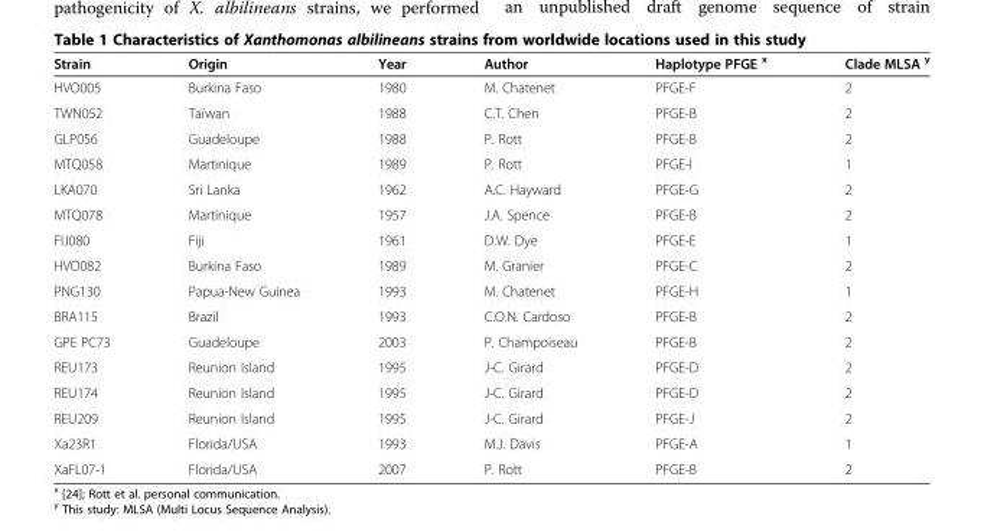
<table><thead><tr><td>Strain</td><td>Origin</td><td>Year</td><td>Author</td><td>Haplotype PFGE <sup>x</sup></td><td>Clade MLSA <sup>y</sup></td></tr></thead><tbody><tr><td>HVO005</td><td>Burkina Faso</td><td>1980</td><td>M. Chatenet</td><td>PFGE-F</td><td>2</td></tr><tr><td>TWN052</td><td>Taïwan</td><td>1988</td><td>C.T. Chen</td><td>PFGE-B</td><td>2</td></tr><tr><td>GLP056</td><td>Guadeloupe</td><td>1988</td><td>P. Rott</td><td>PFGE-B</td><td>2</td></tr><tr><td>MTQ058</td><td>Martinique</td><td>1989</td><td>P. Rott</td><td>PFGE-I</td><td>1</td></tr><tr><td>LKA070</td><td>Sri Lanka</td><td>1962</td><td>A.C. Hayward</td><td>PFGE-G</td><td>2</td></tr><tr><td>MTQ078</td><td>Martinique</td><td>1957</td><td>J.A. Spence</td><td>PFGE-B</td><td>2</td></tr><tr><td>FIJ080</td><td>Fiji</td><td>1961</td><td>D.W. Dye</td><td>PFGE-E</td><td>1</td></tr><tr><td>HVO082</td><td>Burkina Faso</td><td>1989</td><td>M. Granier</td><td>PFGE-C</td><td>2</td></tr><tr><td>PNG130</td><td>Papua-New Guinea</td><td>1993</td><td>M. Chatenet</td><td>PFGE-H</td><td>1</td></tr><tr><td>BRA115</td><td>Brazil</td><td>1993</td><td>C.O.N. Cardoso</td><td>PFGE-B</td><td>2</td></tr><tr><td>GPE PC73</td><td>Guadeloupe</td><td>2003</td><td>P. Champoiseau</td><td>PFGE-B</td><td>2</td></tr><tr><td>REU173</td><td>Reunion Island</td><td>1995</td><td>J-C. Girard</td><td>PFGE-D</td><td>2</td></tr><tr><td>REU174</td><td>Reunion Island</td><td>1995</td><td>J-C. Girard</td><td>PFGE-D</td><td>2</td></tr><tr><td>REU209</td><td>Reunion Island</td><td>1995</td><td>J-C. Girard</td><td>PFGE-J</td><td>2</td></tr><tr><td>Xa23R1</td><td>Florida/USA</td><td>1993</td><td>M.J. Davis</td><td>PFGE-A</td><td>1</td></tr><tr><td>XaFL07-1</td><td>Florida/USA</td><td>2007</td><td>P. Rott</td><td>PFGE-B</td><td>2</td></tr></tbody></table>